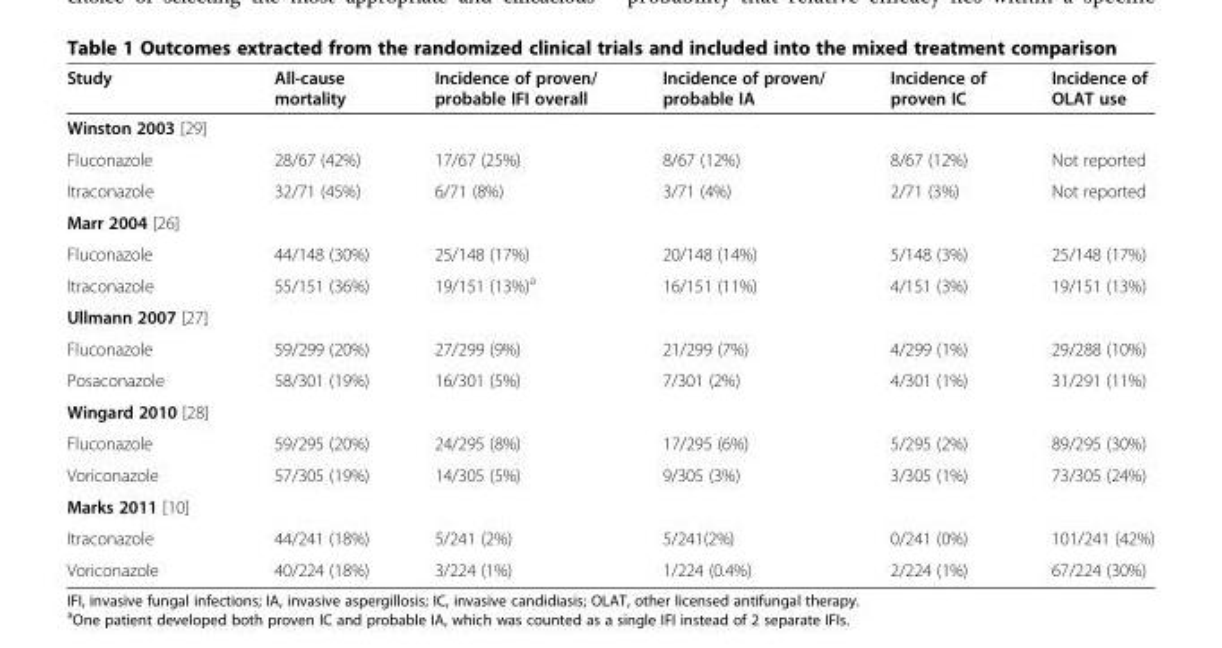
<table><thead><tr><td>Study</td><td>All-cause mortality</td><td>Incidence of proven/ probable IFI overall</td><td>Incidence of proven/ probable IA</td><td>Incidence of proven IC</td><td>Incidence of OLAT use</td></tr></thead><tbody><tr><td colspan="6">Winston 2003 [29]</td></tr><tr><td>Fluconazole</td><td>28/67 (42%)</td><td>17/67 (25%)</td><td>8/67 (12%)</td><td>8/67 (12%)</td><td>Not reported</td></tr><tr><td>Itraconazole</td><td>32/71 (45%)</td><td>6/71 (8%)</td><td>3/71 (4%)</td><td>2/71 (3%)</td><td>Not reported</td></tr><tr><td colspan="6">Marr 2004 [26]</td></tr><tr><td>Fluconazole</td><td>44/148 (30%)</td><td>25/148 (17%)</td><td>20/148 (14%)</td><td>5/148 (3%)</td><td>25/148 (17%)</td></tr><tr><td>Itraconazole</td><td>55/151 (36%)</td><td>19/151 (13%)<sup>a</sup></td><td>16/151 (11%)</td><td>4/151 (3%)</td><td>19/151 (13%)</td></tr><tr><td colspan="6">Ullmann 2007 [27]</td></tr><tr><td>Fluconazole</td><td>59/299 (20%)</td><td>27/299 (9%)</td><td>21/299 (7%)</td><td>4/299 (1%)</td><td>29/288 (10%)</td></tr><tr><td>Posaconazole</td><td>58/301 (19%)</td><td>16/301 (5%)</td><td>7/301 (2%)</td><td>4/301 (1%)</td><td>31/291 (11%)</td></tr><tr><td colspan="6">Wingard 2010 [28]</td></tr><tr><td>Fluconazole</td><td>59/295 (20%)</td><td>24/295 (8%)</td><td>17/295 (6%)</td><td>5/295 (2%)</td><td>89/295 (30%)</td></tr><tr><td>Voriconazole</td><td>57/305 (19%)</td><td>14/305 (5%)</td><td>9/305 (3%)</td><td>3/305 (1%)</td><td>73/305 (24%)</td></tr><tr><td colspan="6">Marks 2011 [10]</td></tr><tr><td>Itraconazole</td><td>44/241 (18%)</td><td>5/241 (2%)</td><td>5/241(2%)</td><td>0/241 (0%)</td><td>101/241 (42%)</td></tr><tr><td>Voriconazole</td><td>40/224 (18%)</td><td>3/224 (1%)</td><td>1/224 (0.4%)</td><td>2/224 (1%)</td><td>67/224 (30%)</td></tr></tbody></table>